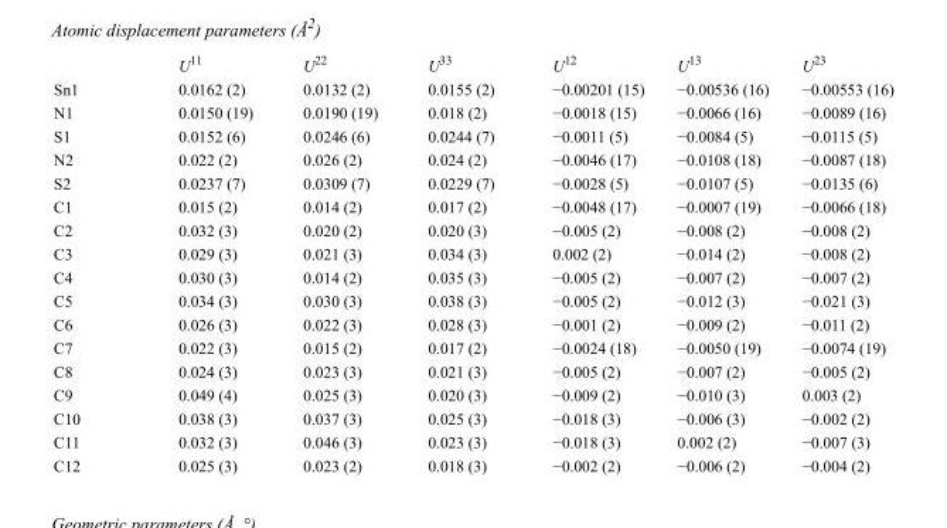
<table><thead><tr><td></td><td>U<sup>11</sup></td><td>U<sup>22</sup></td><td>U<sup>33</sup></td><td>U<sup>12</sup></td><td>U<sup>13</sup></td><td>U<sup>23</sup></td></tr></thead><tbody><tr><td>Sn1</td><td>0.0162 (2)</td><td>0.0132 (2)</td><td>0.0155 (2)</td><td>−0.00201 (15)</td><td>−0.00536 (16)</td><td>−0.00553 (16)</td></tr><tr><td>N1</td><td>0.0150 (19)</td><td>0.0190 (19)</td><td>0.018 (2)</td><td>−0.0018 (15)</td><td>−0.0066 (16)</td><td>−0.0089 (16)</td></tr><tr><td>S1</td><td>0.0152 (6)</td><td>0.0246 (6)</td><td>0.0244 (7)</td><td>−0.0011 (5)</td><td>−0.0084 (5)</td><td>−0.0115 (5)</td></tr><tr><td>N2</td><td>0.022 (2)</td><td>0.026 (2)</td><td>0.024 (2)</td><td>−0.0046 (17)</td><td>−0.0108 (18)</td><td>−0.0087 (18)</td></tr><tr><td>S2</td><td>0.0237 (7)</td><td>0.0309 (7)</td><td>0.0229 (7)</td><td>−0.0028 (5)</td><td>−0.0107 (5)</td><td>−0.0135 (6)</td></tr><tr><td>C1</td><td>0.015 (2)</td><td>0.014 (2)</td><td>0.017 (2)</td><td>−0.0048 (17)</td><td>−0.0007 (19)</td><td>−0.0066 (18)</td></tr><tr><td>C2</td><td>0.032 (3)</td><td>0.020 (2)</td><td>0.020 (3)</td><td>−0.005 (2)</td><td>−0.008 (2)</td><td>−0.008 (2)</td></tr><tr><td>C3</td><td>0.029 (3)</td><td>0.021 (3)</td><td>0.034 (3)</td><td>0.002 (2)</td><td>−0.014 (2)</td><td>−0.008 (2)</td></tr><tr><td>C4</td><td>0.030 (3)</td><td>0.014 (2)</td><td>0.035 (3)</td><td>−0.005 (2)</td><td>−0.007 (2)</td><td>−0.007 (2)</td></tr><tr><td>C5</td><td>0.034 (3)</td><td>0.030 (3)</td><td>0.038 (3)</td><td>−0.005 (2)</td><td>−0.012 (3)</td><td>−0.021 (3)</td></tr><tr><td>C6</td><td>0.026 (3)</td><td>0.022 (3)</td><td>0.028 (3)</td><td>−0.001 (2)</td><td>−0.009 (2)</td><td>−0.011 (2)</td></tr><tr><td>C7</td><td>0.022 (3)</td><td>0.015 (2)</td><td>0.017 (2)</td><td>−0.0024 (18)</td><td>−0.0050 (19)</td><td>−0.0074 (19)</td></tr><tr><td>C8</td><td>0.024 (3)</td><td>0.023 (3)</td><td>0.021 (3)</td><td>−0.005 (2)</td><td>−0.007 (2)</td><td>−0.005 (2)</td></tr><tr><td>C9</td><td>0.049 (4)</td><td>0.025 (3)</td><td>0.020 (3)</td><td>−0.009 (2)</td><td>−0.010 (3)</td><td>0.003 (2)</td></tr><tr><td>C10</td><td>0.038 (3)</td><td>0.037 (3)</td><td>0.025 (3)</td><td>−0.018 (3)</td><td>−0.006 (3)</td><td>−0.002 (2)</td></tr><tr><td>C11</td><td>0.032 (3)</td><td>0.046 (3)</td><td>0.023 (3)</td><td>−0.018 (3)</td><td>0.002 (2)</td><td>−0.007 (3)</td></tr><tr><td>C12</td><td>0.025 (3)</td><td>0.023 (2)</td><td>0.018 (3)</td><td>−0.002 (2)</td><td>−0.006 (2)</td><td>−0.004 (2)</td></tr></tbody></table>